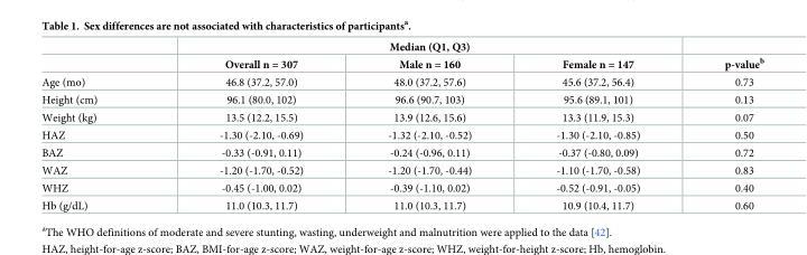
<table><thead><tr><td rowspan="2"></td><td colspan="3">Median (Q1, Q3)</td><td rowspan="2">p-value<sup>b</sup></td></tr><tr><td>Overall n = 307</td><td>Male n = 160</td><td>Female n = 147</td></tr></thead><tbody><tr><td>Age (mo)</td><td>46.8 (37.2, 57.0)</td><td>48.0 (37.2, 57.6)</td><td>45.6 (37.2, 56.4)</td><td>0.73</td></tr><tr><td>Height (cm)</td><td>96.1 (80.0, 102)</td><td>96.6 (90.7, 103)</td><td>95.6 (89.1, 101)</td><td>0.13</td></tr><tr><td>Weight (kg)</td><td>13.5 (12.2, 15.5)</td><td>13.9 (12.6, 15.6)</td><td>13.3 (11.9, 15.3)</td><td>0.07</td></tr><tr><td>HAZ</td><td>-1.30 (-2.10, -0.69)</td><td>-1.32 (-2.10, -0.52)</td><td>-1.30 (-2.10, -0.85)</td><td>0.50</td></tr><tr><td>BAZ</td><td>-0.33 (-0.91, 0.11)</td><td>-0.24 (-0.96, 0.11)</td><td>-0.37 (-0.80, 0.09)</td><td>0.72</td></tr><tr><td>WAZ</td><td>-1.20 (-1.70, -0.52)</td><td>-1.20 (-1.70, -0.44)</td><td>-1.10 (-1.70, -0.58)</td><td>0.83</td></tr><tr><td>WHZ</td><td>-0.45 (-1.00, 0.02)</td><td>-0.39 (-1.10, 0.02)</td><td>-0.52 (-0.91, -0.05)</td><td>0.40</td></tr><tr><td>Hb (g/dL)</td><td>11.0 (10.3, 11.7)</td><td>11.0 (10.3, 11.7)</td><td>10.9 (10.4, 11.7)</td><td>0.60</td></tr></tbody></table>